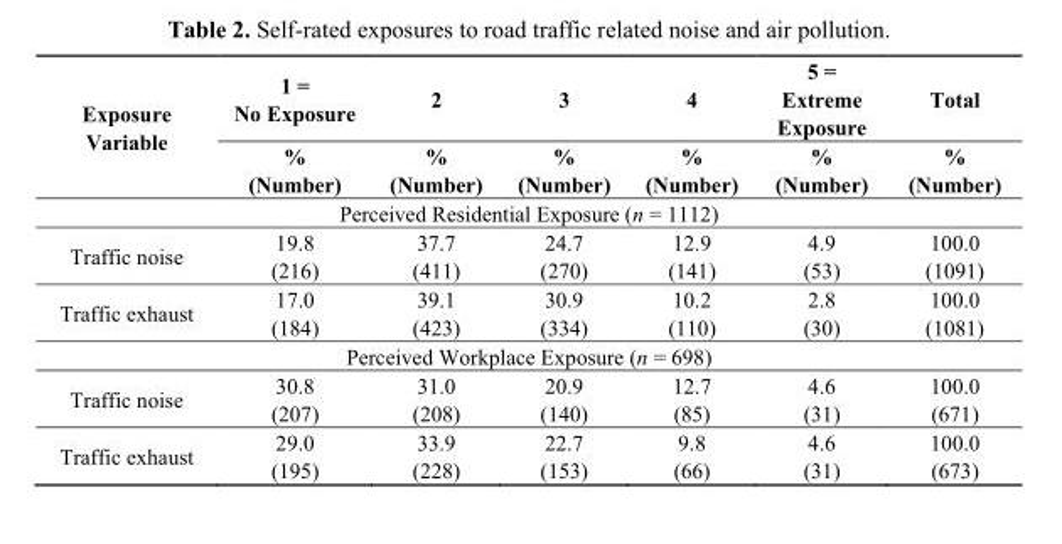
<table><thead><tr><td rowspan="2">Exposure Variable</td><td rowspan="2">1 = No Exposure % (Number)</td><td rowspan="2">2 % (Number)</td><td rowspan="2">3 % (Number)</td><td rowspan="2">4 % (Number)</td><td rowspan="2">5 = Extreme Exposure % (Number)</td><td rowspan="2">Total % (Number)</td></tr><tr></tr></thead><tbody><tr><td colspan="7">Perceived Residential Exposure (n = 1112)</td></tr><tr><td>Traffic noise</td><td>19.8 (216)</td><td>37.7 (411)</td><td>24.7 (270)</td><td>12.9 (141)</td><td>4.9 (53)</td><td>100.0 (1091)</td></tr><tr><td>Traffic exhaust</td><td>17.0 (184)</td><td>39.1 (423)</td><td>30.9 (334)</td><td>10.2 (110)</td><td>2.8 (30)</td><td>100.0 (1081)</td></tr><tr><td colspan="7">Perceived Workplace Exposure (n = 698)</td></tr><tr><td>Traffic noise</td><td>30.8 (207)</td><td>31.0 (208)</td><td>20.9 (140)</td><td>12.7 (85)</td><td>4.6 (31)</td><td>100.0 (671)</td></tr><tr><td>Traffic exhaust</td><td>29.0 (195)</td><td>33.9 (228)</td><td>22.7 (153)</td><td>9.8 (66)</td><td>4.6 (31)</td><td>100.0 (673)</td></tr></tbody></table>